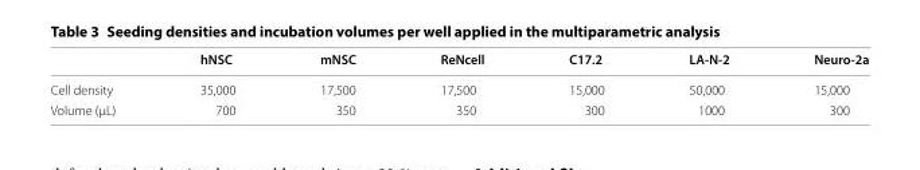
<table><thead><tr><td></td><td>hNSC</td><td>mNSC</td><td>ReNcell</td><td>C17.2</td><td>LA‑N‑2</td><td>Neuro‑2a</td></tr></thead><tbody><tr><td>Cell density</td><td>35,000</td><td>17,500</td><td>17,500</td><td>15,000</td><td>50,000</td><td>15,000</td></tr><tr><td>Volume (µL)</td><td>700</td><td>350</td><td>350</td><td>300</td><td>1000</td><td>300</td></tr></tbody></table>